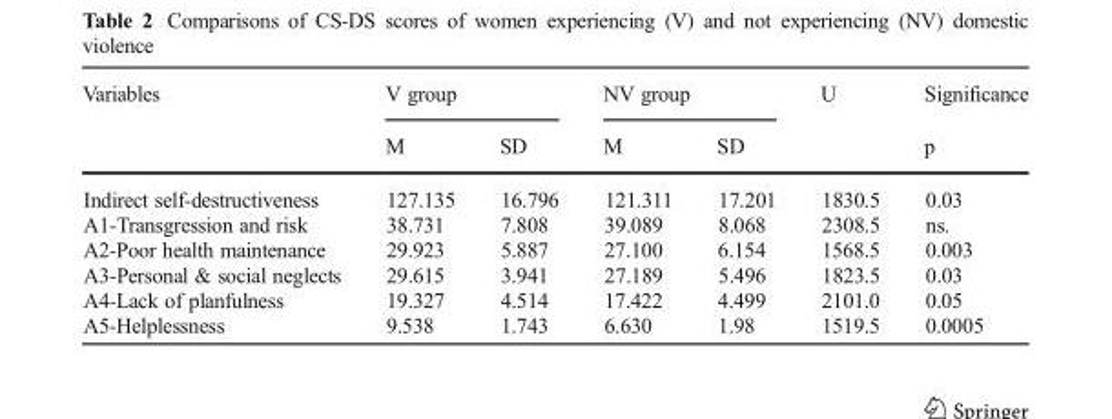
<table><thead><tr><td rowspan="2">Variables</td><td colspan="2">V group</td><td colspan="2">NV group</td><td rowspan="2">U</td><td rowspan="2">Significance p</td></tr><tr><td>M</td><td>SD</td><td>M</td><td>SD</td></tr></thead><tbody><tr><td>Indirect self-destructiveness</td><td>127.135</td><td>16.796</td><td>121.311</td><td>17.201</td><td>1830.5</td><td>0.03</td></tr><tr><td>A1-Transgression and risk</td><td>38.731</td><td>7.808</td><td>39.089</td><td>8.068</td><td>2308.5</td><td>ns.</td></tr><tr><td>A2-Poor health maintenance</td><td>29.923</td><td>5.887</td><td>27.100</td><td>6.154</td><td>1568.5</td><td>0.003</td></tr><tr><td>A3-Personal &amp; social neglects</td><td>29.615</td><td>3.941</td><td>27.189</td><td>5.496</td><td>1823.5</td><td>0.03</td></tr><tr><td>A4-Lack of planfulness</td><td>19.327</td><td>4.514</td><td>17.422</td><td>4.499</td><td>2101.0</td><td>0.05</td></tr><tr><td>A5-Helplessness</td><td>9.538</td><td>1.743</td><td>6.630</td><td>1.98</td><td>1519.5</td><td>0.0005</td></tr></tbody></table>